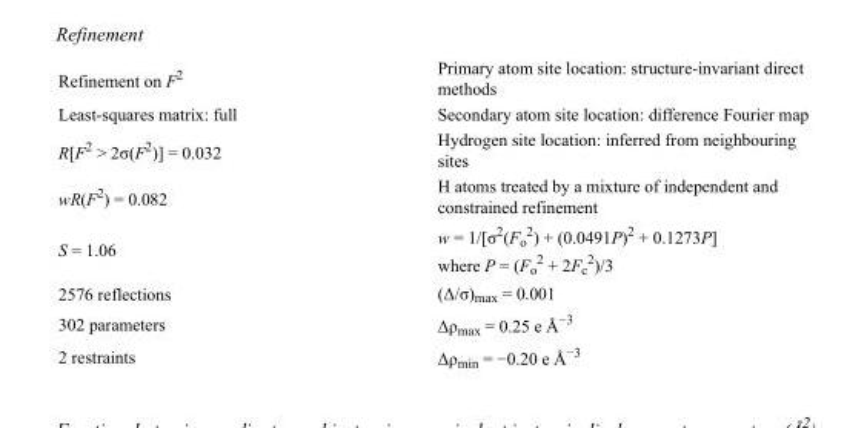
<table><tbody><tr><td>Refinement on F<sup>2</sup></td><td>Primary atom site location: structure-invariant direct methods</td></tr><tr><td>Least-squares matrix: full</td><td>Secondary atom site location: difference Fourier map</td></tr><tr><td>R[F<sup>2</sup> &gt; 2σ(F<sup>2</sup>)] = 0.032</td><td>Hydrogen site location: inferred from neighbouring sites</td></tr><tr><td>wR(F<sup>2</sup>) = 0.082</td><td>H atoms treated by a mixture of independent and constrained refinement</td></tr><tr><td>S = 1.06</td><td>w = 1/[σ<sup>2</sup>(F<sub>o</sub> <sup>2</sup>) + (0.0491P)<sup>2</sup> + 0.1273P] where P = (F<sub>o</sub> <sup>2</sup> + 2F<sub>c</sub> <sup>2</sup>)/3</td></tr><tr><td>2576 reflections</td><td>(Δ/σ)<sub>max</sub> = 0.001</td></tr><tr><td>302 parameters</td><td>Δρ<sub>max</sub> = 0.25 e Å<sup>−3</sup></td></tr><tr><td>2 restraints</td><td>Δρ<sub>min</sub> = −0.20 e Å<sup>−3</sup></td></tr></tbody></table>